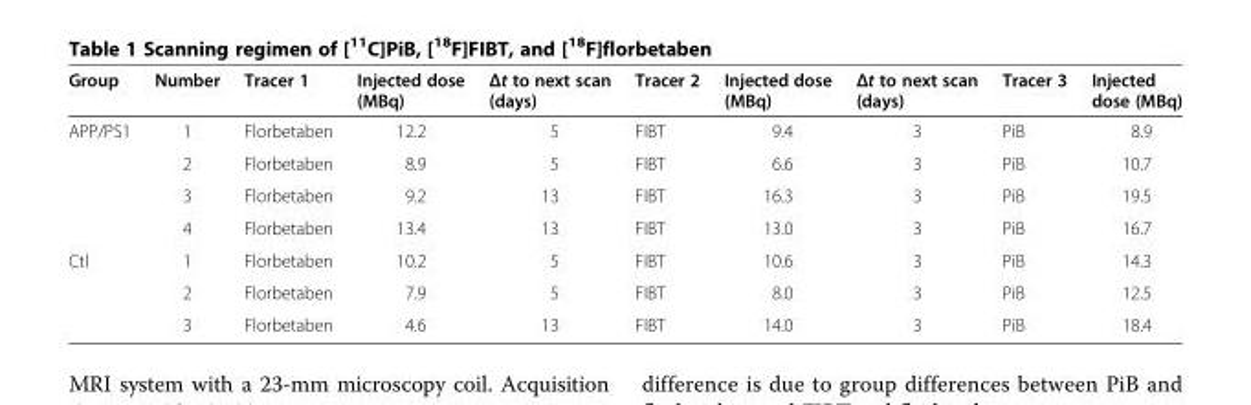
<table><thead><tr><td>Group</td><td>Number</td><td>Tracer 1</td><td>Injected dose (MBq)</td><td>Δt to next scan (days)</td><td>Tracer 2</td><td>Injected dose (MBq)</td><td>Δt to next scan (days)</td><td>Tracer 3</td><td>Injected dose (MBq)</td></tr></thead><tbody><tr><td rowspan="4">APP/PS1</td><td>1</td><td>Florbetaben</td><td>12.2</td><td>5</td><td>FIBT</td><td>9.4</td><td>3</td><td>PiB</td><td>8.9</td></tr><tr><td>2</td><td>Florbetaben</td><td>8.9</td><td>5</td><td>FIBT</td><td>6.6</td><td>3</td><td>PiB</td><td>10.7</td></tr><tr><td>3</td><td>Florbetaben</td><td>9.2</td><td>13</td><td>FIBT</td><td>16.3</td><td>3</td><td>PiB</td><td>19.5</td></tr><tr><td>4</td><td>Florbetaben</td><td>13.4</td><td>13</td><td>FIBT</td><td>13.0</td><td>3</td><td>PiB</td><td>16.7</td></tr><tr><td rowspan="3">Ctl</td><td>1</td><td>Florbetaben</td><td>10.2</td><td>5</td><td>FIBT</td><td>10.6</td><td>3</td><td>PiB</td><td>14.3</td></tr><tr><td>2</td><td>Florbetaben</td><td>7.9</td><td>5</td><td>FIBT</td><td>8.0</td><td>3</td><td>PiB</td><td>12.5</td></tr><tr><td>3</td><td>Florbetaben</td><td>4.6</td><td>13</td><td>FIBT</td><td>14.0</td><td>3</td><td>PiB</td><td>18.4</td></tr></tbody></table>